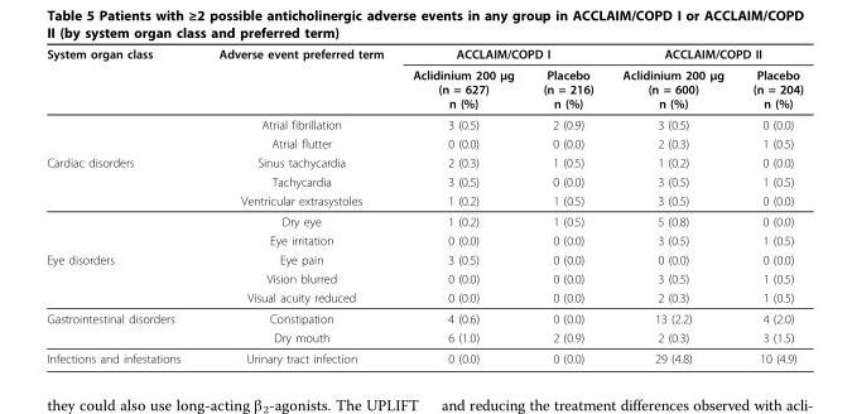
<table><thead><tr><td rowspan="2">System organ class</td><td rowspan="2">Adverse event preferred term</td><td colspan="2">ACCLAIM/COPD I</td><td colspan="2">ACCLAIM/COPD II</td></tr><tr><td>Aclidinium 200 μg (n = 627) n (%)</td><td>Placebo (n = 216) n (%)</td><td>Aclidinium 200 μg (n = 600) n (%)</td><td>Placebo (n = 204) n (%)</td></tr></thead><tbody><tr><td></td><td>Atrial fibrillation</td><td>3 (0.5)</td><td>2 (0.9)</td><td>3 (0.5)</td><td>0 (0.0)</td></tr><tr><td></td><td>Atrial flutter</td><td>0 (0.0)</td><td>0 (0.0)</td><td>2 (0.3)</td><td>1 (0.5)</td></tr><tr><td rowspan="5">Cardiac disorders</td><td>Sinus tachycardia</td><td>2 (0.3)</td><td>1 (0.5)</td><td>1 (0.2)</td><td>0 (0.0)</td></tr><tr><td>Tachycardia</td><td>3 (0.5)</td><td>0 (0.0)</td><td>3 (0.5)</td><td>1 (0.5)</td></tr><tr><td>Ventricular extrasystoles</td><td>1 (0.2)</td><td>1 (0.5)</td><td>3 (0.5)</td><td>0 (0.0)</td></tr><tr><td>Dry eye</td><td>1 (0.2)</td><td>1 (0.5)</td><td>5 (0.8)</td><td>0 (0.0)</td></tr><tr><td>Eye irritation</td><td>0 (0.0)</td><td>0 (0.0)</td><td>3 (0.5)</td><td>1 (0.5)</td></tr><tr><td rowspan="3">Eye disorders</td><td>Eye pain</td><td>3 (0.5)</td><td>0 (0.0)</td><td>0 (0.0)</td><td>0 (0.0)</td></tr><tr><td>Vision blurred</td><td>0 (0.0)</td><td>0 (0.0)</td><td>3 (0.5)</td><td>1 (0.5)</td></tr><tr><td>Visual acuity reduced</td><td>0 (0.0)</td><td>0 (0.0)</td><td>2 (0.3)</td><td>1 (0.5)</td></tr><tr><td rowspan="2">Gastrointestinal disorders</td><td>Constipation</td><td>4 (0.6)</td><td>0 (0.0)</td><td>13 (2.2)</td><td>4 (2.0)</td></tr><tr><td>Dry mouth</td><td>6 (1.0)</td><td>2 (0.9)</td><td>2 (0.3)</td><td>3 (1.5)</td></tr><tr><td>Infections and infestations</td><td>Urinary tract infection</td><td>0 (0.0)</td><td>0 (0.0)</td><td>29 (4.8)</td><td>10 (4.9)</td></tr></tbody></table>